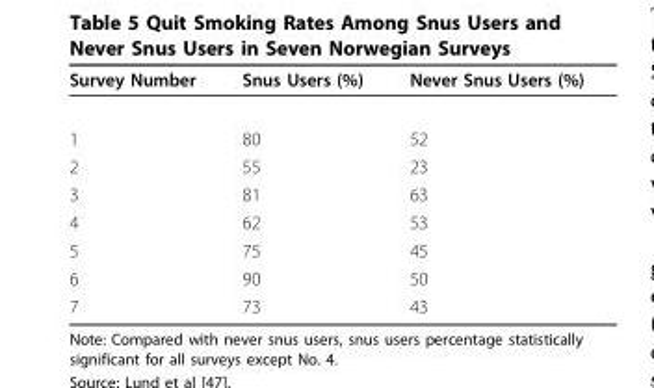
<table><thead><tr><td>Survey Number</td><td>Snus Users (%)</td><td>Never Snus Users (%)</td></tr></thead><tbody><tr><td>1</td><td>80</td><td>52</td></tr><tr><td>2</td><td>55</td><td>23</td></tr><tr><td>3</td><td>81</td><td>63</td></tr><tr><td>4</td><td>62</td><td>53</td></tr><tr><td>5</td><td>75</td><td>45</td></tr><tr><td>6</td><td>90</td><td>50</td></tr><tr><td>7</td><td>73</td><td>43</td></tr></tbody></table>